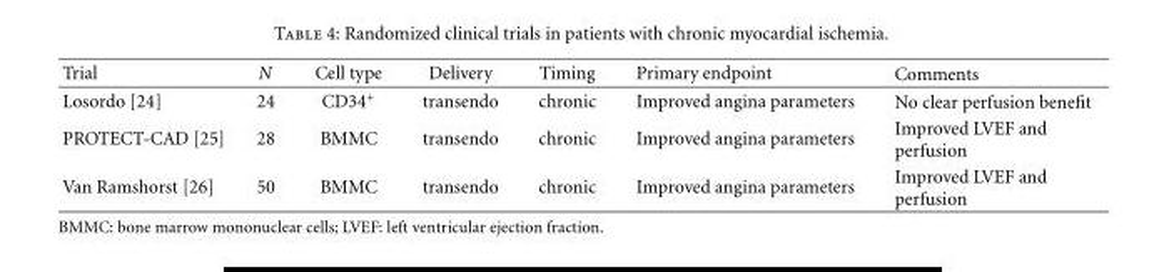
<table><thead><tr><td>Trial</td><td>N</td><td>Cell type</td><td>Delivery</td><td>Timing</td><td>Primary endpoint</td><td>Comments</td></tr></thead><tbody><tr><td>Losordo [24]</td><td>24</td><td>CD34<sup>+</sup></td><td>transendo</td><td>chronic</td><td>Improved angina parameters</td><td>No clear perfusion benefit</td></tr><tr><td>PROTECT-CAD [25]</td><td>28</td><td>BMMC</td><td>transendo</td><td>chronic</td><td>Improved angina parameters</td><td>Improved LVEF and perfusion</td></tr><tr><td>Van Ramshorst [26]</td><td>50</td><td>BMMC</td><td>transendo</td><td>chronic</td><td>Improved angina parameters</td><td>Improved LVEF and perfusion</td></tr></tbody></table>